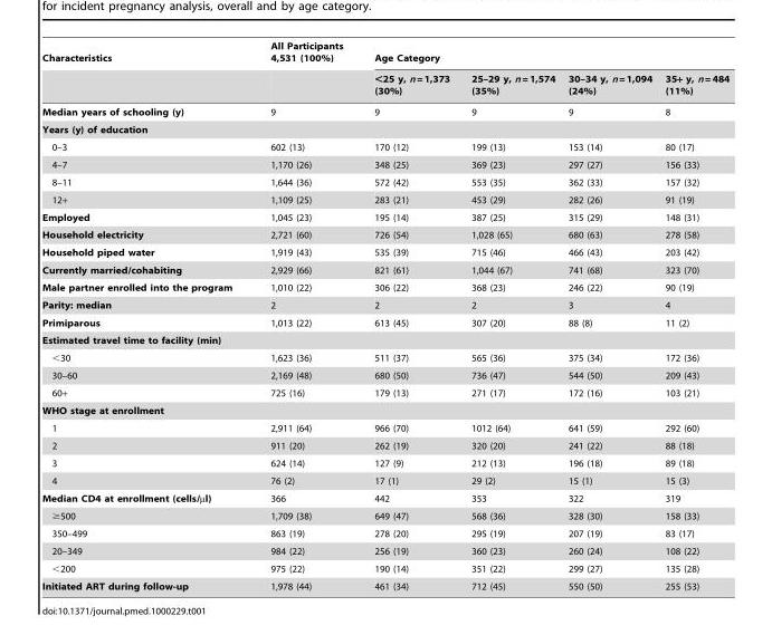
<table><thead><tr><td rowspan="2">Characteristics</td><td rowspan="2">All Participants 4,531 (100%)</td><td colspan="4">Age Category</td></tr><tr><td>&lt;25 y, n = 1,373 (30%)</td><td>25–29 y, n = 1,574 (35%)</td><td>30–34 y, n = 1,094 (24%)</td><td>35+ y, n = 484 (11%)</td></tr></thead><tbody><tr><td>Median years of schooling (y)</td><td>9</td><td>9</td><td>9</td><td>9</td><td>8</td></tr><tr><td colspan="6">Years (y) of education</td></tr><tr><td>0–3</td><td>602 (13)</td><td>170 (12)</td><td>199 (13)</td><td>153 (14)</td><td>80 (17)</td></tr><tr><td>4–7</td><td>1,170 (26)</td><td>348 (25)</td><td>369 (23)</td><td>297 (27)</td><td>156 (33)</td></tr><tr><td>8–11</td><td>1,644 (36)</td><td>572 (42)</td><td>553 (35)</td><td>362 (33)</td><td>157 (32)</td></tr><tr><td>12+</td><td>1,109 (25)</td><td>283 (21)</td><td>453 (29)</td><td>282 (26)</td><td>91 (19)</td></tr><tr><td>Employed</td><td>1,045 (23)</td><td>195 (14)</td><td>387 (25)</td><td>315 (29)</td><td>148 (31)</td></tr><tr><td>Household electricity</td><td>2,721 (60)</td><td>726 (54)</td><td>1,028 (65)</td><td>680 (63)</td><td>278 (58)</td></tr><tr><td>Household piped water</td><td>1,919 (43)</td><td>535 (39)</td><td>715 (46)</td><td>466 (43)</td><td>203 (42)</td></tr><tr><td>Currently married/cohabiting</td><td>2,929 (66)</td><td>821 (61)</td><td>1,044 (67)</td><td>741 (68)</td><td>323 (70)</td></tr><tr><td>Male partner enrolled into the program</td><td>1,010 (22)</td><td>306 (22)</td><td>368 (23)</td><td>246 (22)</td><td>90 (19)</td></tr><tr><td>Parity: median</td><td>2</td><td>2</td><td>2</td><td>3</td><td>4</td></tr><tr><td>Primiparous</td><td>1,013 (22)</td><td>613 (45)</td><td>307 (20)</td><td>88 (8)</td><td>11 (2)</td></tr><tr><td colspan="6">Estimated travel time to facility (min)</td></tr><tr><td>&lt;30</td><td>1,623 (36)</td><td>511 (37)</td><td>565 (36)</td><td>375 (34)</td><td>172 (36)</td></tr><tr><td>30–60</td><td>2,169 (48)</td><td>680 (50)</td><td>736 (47)</td><td>544 (50)</td><td>209 (43)</td></tr><tr><td>60+</td><td>725 (16)</td><td>179 (13)</td><td>271 (17)</td><td>172 (16)</td><td>103 (21)</td></tr><tr><td colspan="6">WHO stage at enrollment</td></tr><tr><td>1</td><td>2,911 (64)</td><td>966 (70)</td><td>1012 (64)</td><td>641 (59)</td><td>292 (60)</td></tr><tr><td>2</td><td>911 (20)</td><td>262 (19)</td><td>320 (20)</td><td>241 (22)</td><td>88 (18)</td></tr><tr><td>3</td><td>624 (14)</td><td>127 (9)</td><td>212 (13)</td><td>196 (18)</td><td>89 (18)</td></tr><tr><td>4</td><td>76 (2)</td><td>17 (1)</td><td>29 (2)</td><td>15 (1)</td><td>15 (3)</td></tr><tr><td>Median CD4 at enrollment (cells/µl)</td><td>366</td><td>442</td><td>353</td><td>322</td><td>319</td></tr><tr><td>≥500</td><td>1,709 (38)</td><td>649 (47)</td><td>568 (36)</td><td>328 (30)</td><td>158 (33)</td></tr><tr><td>350–499</td><td>863 (19)</td><td>278 (20)</td><td>295 (19)</td><td>207 (19)</td><td>83 (17)</td></tr><tr><td>20–349</td><td>984 (22)</td><td>256 (19)</td><td>360 (23)</td><td>260 (24)</td><td>108 (22)</td></tr><tr><td>&lt;200</td><td>975 (22)</td><td>190 (14)</td><td>351 (22)</td><td>299 (27)</td><td>135 (28)</td></tr><tr><td>Initiated ART during follow-up</td><td>1,978 (44)</td><td>461 (34)</td><td>712 (45)</td><td>550 (50)</td><td>255 (53)</td></tr></tbody></table>